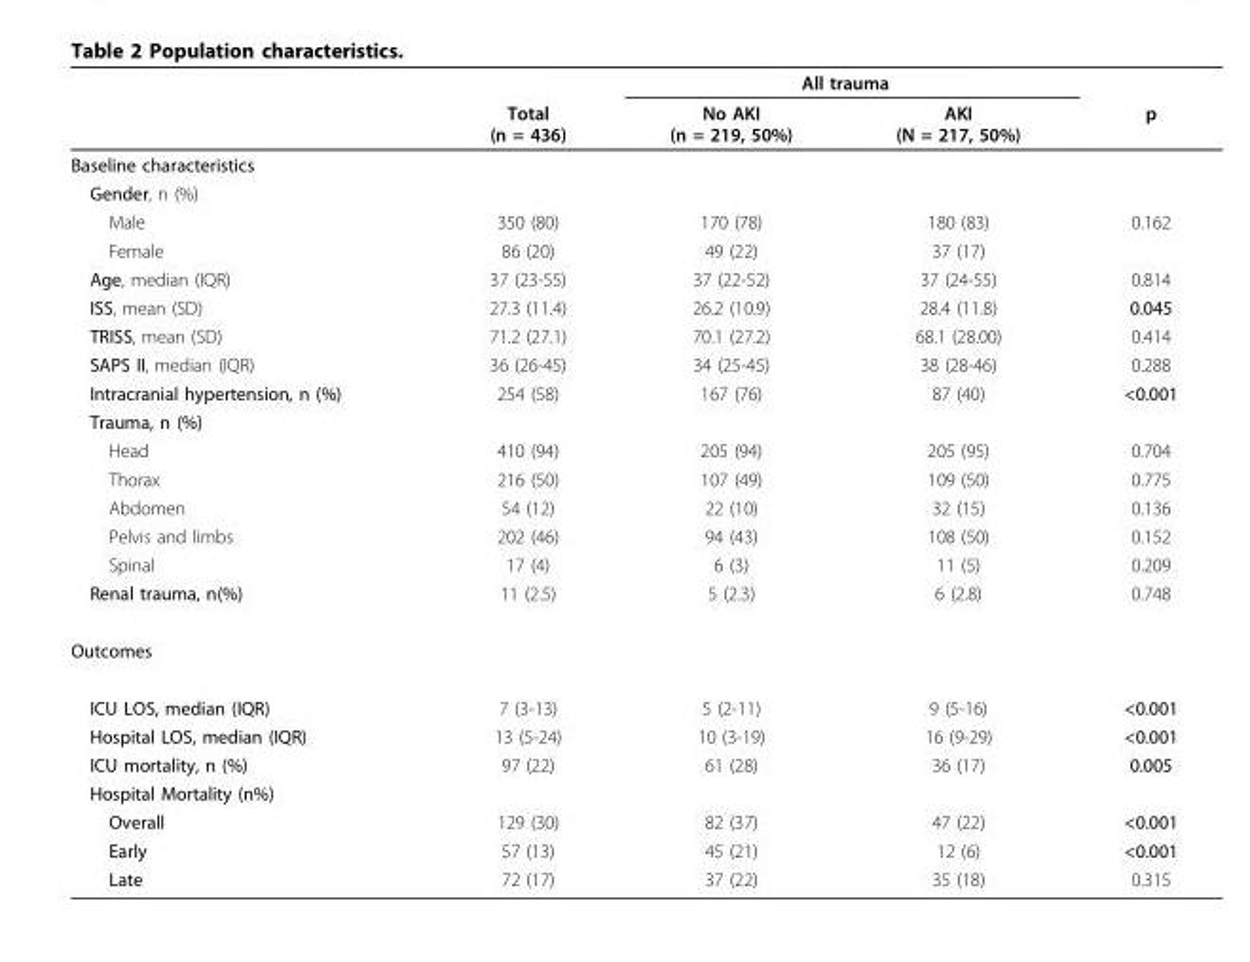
<table><thead><tr><td rowspan="2"></td><td rowspan="2">Total (n = 436)</td><td colspan="2">All trauma</td><td rowspan="2">p</td></tr><tr><td>No AKI (n = 219, 50%)</td><td>AKI (N = 217, 50%)</td></tr></thead><tbody><tr><td colspan="5">Baseline characteristics</td></tr><tr><td colspan="5">Gender, n (%)</td></tr><tr><td>Male</td><td>350 (80)</td><td>170 (78)</td><td>180 (83)</td><td>0.162</td></tr><tr><td>Female</td><td>86 (20)</td><td>49 (22)</td><td>37 (17)</td><td></td></tr><tr><td>Age, median (IQR)</td><td>37 (23-55)</td><td>37 (22-52)</td><td>37 (24-55)</td><td>0.814</td></tr><tr><td>ISS, mean (SD)</td><td>27.3 (11.4)</td><td>26.2 (10.9)</td><td>28.4 (11.8)</td><td>0.045</td></tr><tr><td>TRISS, mean (SD)</td><td>71.2 (27.1)</td><td>70.1 (27.2)</td><td>68.1 (28.00)</td><td>0.414</td></tr><tr><td>SAPS II, median (IQR)</td><td>36 (26-45)</td><td>34 (25-45)</td><td>38 (28-46)</td><td>0.288</td></tr><tr><td>Intracranial hypertension, n (%)</td><td>254 (58)</td><td>167 (76)</td><td>87 (40)</td><td>&lt;0.001</td></tr><tr><td colspan="5">Trauma, n (%)</td></tr><tr><td>Head</td><td>410 (94)</td><td>205 (94)</td><td>205 (95)</td><td>0.704</td></tr><tr><td>Thorax</td><td>216 (50)</td><td>107 (49)</td><td>109 (50)</td><td>0.775</td></tr><tr><td>Abdomen</td><td>54 (12)</td><td>22 (10)</td><td>32 (15)</td><td>0.136</td></tr><tr><td>Pelvis and limbs</td><td>202 (46)</td><td>94 (43)</td><td>108 (50)</td><td>0.152</td></tr><tr><td>Spinal</td><td>17 (4)</td><td>6 (3)</td><td>11 (5)</td><td>0.209</td></tr><tr><td>Renal trauma, n(%)</td><td>11 (2.5)</td><td>5 (2.3)</td><td>6 (2.8)</td><td>0.748</td></tr><tr><td colspan="5">Outcomes</td></tr><tr><td>ICU LOS, median (IQR)</td><td>7 (3-13)</td><td>5 (2-11)</td><td>9 (5-16)</td><td>&lt;0.001</td></tr><tr><td>Hospital LOS, median (IQR)</td><td>13 (5-24)</td><td>10 (3-19)</td><td>16 (9-29)</td><td>&lt;0.001</td></tr><tr><td>ICU mortality, n (%)</td><td>97 (22)</td><td>61 (28)</td><td>36 (17)</td><td>0.005</td></tr><tr><td colspan="5">Hospital Mortality (n%)</td></tr><tr><td>Overall</td><td>129 (30)</td><td>82 (37)</td><td>47 (22)</td><td>&lt;0.001</td></tr><tr><td>Early</td><td>57 (13)</td><td>45 (21)</td><td>12 (6)</td><td>&lt;0.001</td></tr><tr><td>Late</td><td>72 (17)</td><td>37 (22)</td><td>35 (18)</td><td>0.315</td></tr></tbody></table>